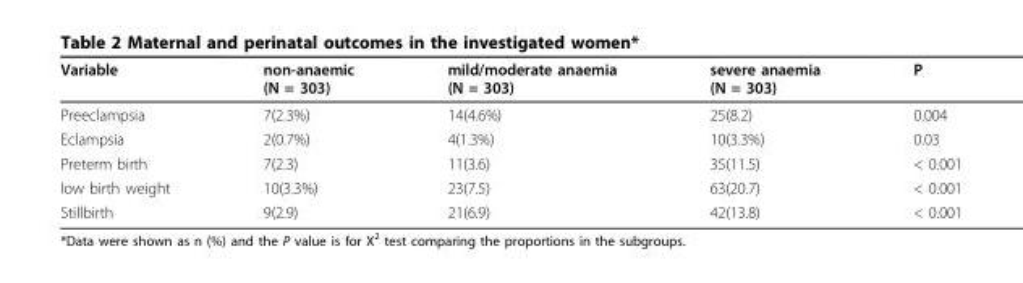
<table><thead><tr><td>Variable</td><td>non-anaemic (N = 303)</td><td>mild/moderate anaemia (N = 303)</td><td>severe anaemia (N = 303)</td><td>P</td></tr></thead><tbody><tr><td>Preeclampsia</td><td>7(2.3%)</td><td>14(4.6%)</td><td>25(8.2)</td><td>0.004</td></tr><tr><td>Eclampsia</td><td>2(0.7%)</td><td>4(1.3%)</td><td>10(3.3%)</td><td>0.03</td></tr><tr><td>Preterm birth</td><td>7(2.3)</td><td>11(3.6)</td><td>35(11.5)</td><td>&lt; 0.001</td></tr><tr><td>low birth weight</td><td>10(3.3%)</td><td>23(7.5)</td><td>63(20.7)</td><td>&lt; 0.001</td></tr><tr><td>Stillbirth</td><td>9(2.9)</td><td>21(6.9)</td><td>42(13.8)</td><td>&lt; 0.001</td></tr></tbody></table>